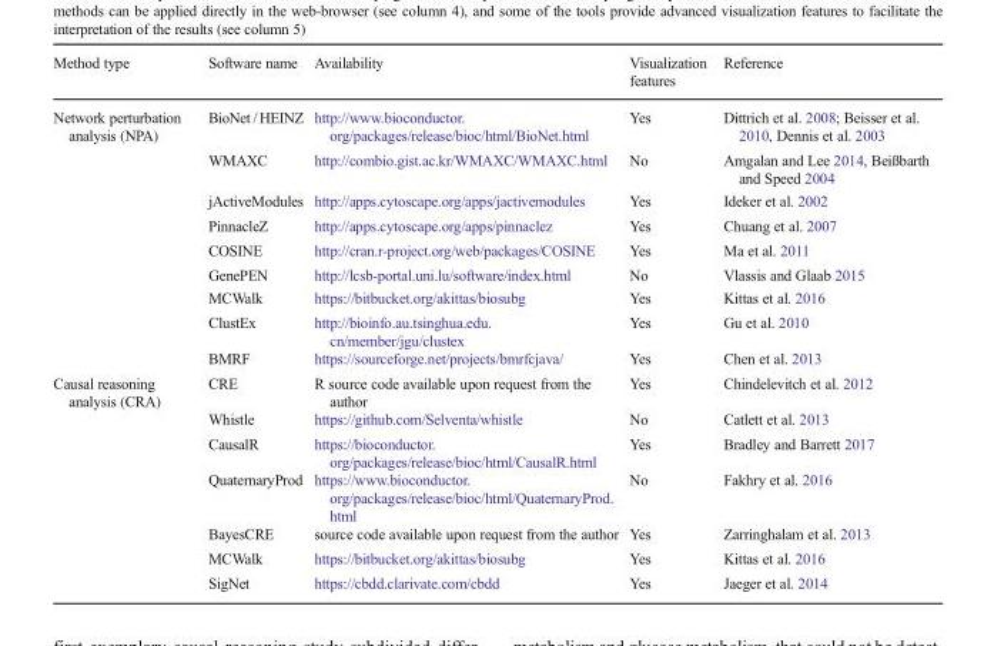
<table><thead><tr><td>Method type</td><td>Software name</td><td>Availability</td><td>Visualization features</td><td>Reference</td></tr></thead><tbody><tr><td rowspan="9">Network perturbation analysis (NPA)</td><td>BioNet / HEINZ</td><td>http://www.bioconductor. org/packages/release/bioc/html/BioNet.html</td><td>Yes</td><td>Dittrich et al. 2008; Beisser et al. 2010, Dennis et al. 2003</td></tr><tr><td>WMAXC</td><td>http://combio.gist.ac.kr/WMAXC/WMAXC.html</td><td>No</td><td>Amgalan and Lee 2014, Beißbarth and Speed 2004</td></tr><tr><td>jActiveModules</td><td>http://apps.cytoscape.org/apps/jactivemodules</td><td>Yes</td><td>Ideker et al. 2002</td></tr><tr><td>PinnacleZ</td><td>http://apps.cytoscape.org/apps/pinnaclez</td><td>Yes</td><td>Chuang et al. 2007</td></tr><tr><td>COSINE</td><td>http://cran.r-project.org/web/packages/COSINE</td><td>Yes</td><td>Ma et al. 2011</td></tr><tr><td>GenePEN</td><td>http://lcsb-portal.uni.lu/software/index.html</td><td>No</td><td>Vlassis and Glaab 2015</td></tr><tr><td>MCWalk</td><td>https://bitbucket.org/akittas/biosubg</td><td>Yes</td><td>Kittas et al. 2016</td></tr><tr><td>ClustEx</td><td>http://bioinfo.au.tsinghua.edu. cn/member/jgu/clustex</td><td>Yes</td><td>Gu et al. 2010</td></tr><tr><td>BMRF</td><td>https://sourceforge.net/projects/bmrfcjava/</td><td>Yes</td><td>Chen et al. 2013</td></tr><tr><td rowspan="7">Causal reasoning analysis (CRA)</td><td>CRE</td><td>R source code available upon request from the author</td><td>Yes</td><td>Chindelevitch et al. 2012</td></tr><tr><td>Whistle</td><td>https://github.com/Selventa/whistle</td><td>No</td><td>Catlett et al. 2013</td></tr><tr><td>CausalR</td><td>https://bioconductor. org/packages/release/bioc/html/CausalR.html</td><td>Yes</td><td>Bradley and Barrett 2017</td></tr><tr><td>QuaternaryProd</td><td>https://www.bioconductor. org/packages/release/bioc/html/QuaternaryProd. html</td><td>No</td><td>Fakhry et al. 2016</td></tr><tr><td>BayesCRE</td><td>source code available upon request from the author</td><td>Yes</td><td>Zarringhalam et al. 2013</td></tr><tr><td>MCWalk</td><td>https://bitbucket.org/akittas/biosubg</td><td>Yes</td><td>Kittas et al. 2016</td></tr><tr><td>SigNet</td><td>https://cbdd.clarivate.com/cbdd</td><td>Yes</td><td>Jaeger et al. 2014</td></tr></tbody></table>